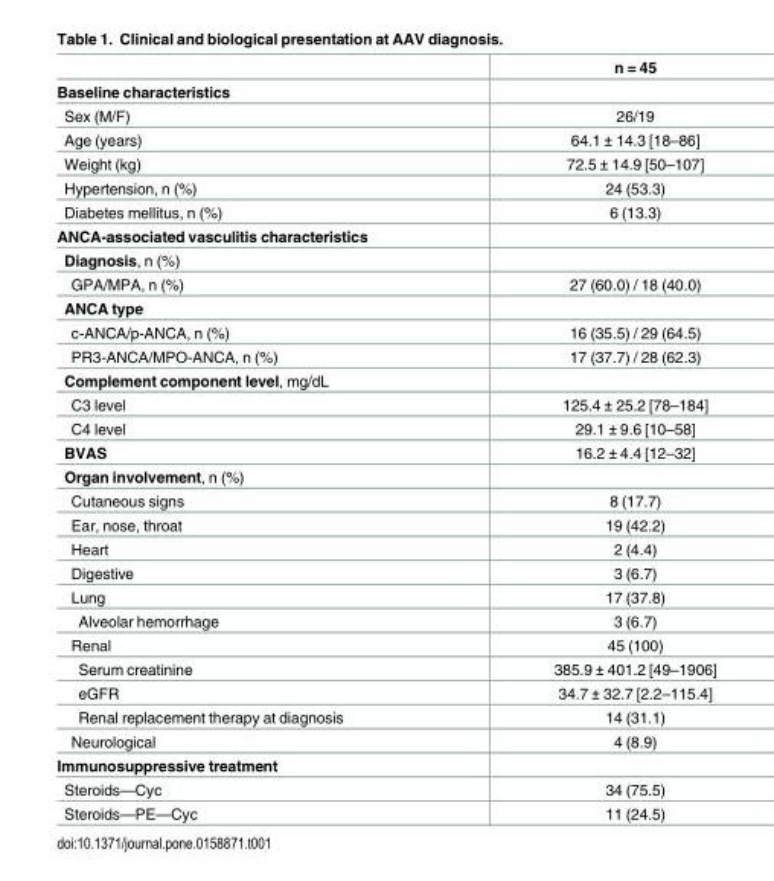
<table><thead><tr><td></td><td>n = 45</td></tr></thead><tbody><tr><td colspan="2">Baseline characteristics</td></tr><tr><td>Sex (M/F)</td><td>26/19</td></tr><tr><td>Age (years)</td><td>64.1 ± 14.3 [18–86]</td></tr><tr><td>Weight (kg)</td><td>72.5 ± 14.9 [50–107]</td></tr><tr><td>Hypertension, n (%)</td><td>24 (53.3)</td></tr><tr><td>Diabetes mellitus, n (%)</td><td>6 (13.3)</td></tr><tr><td colspan="2">ANCA-associated vasculitis characteristics</td></tr><tr><td colspan="2">Diagnosis, n (%)</td></tr><tr><td>GPA/MPA, n (%)</td><td>27 (60.0) / 18 (40.0)</td></tr><tr><td colspan="2">ANCA type</td></tr><tr><td>c-ANCA/p-ANCA, n (%)</td><td>16 (35.5) / 29 (64.5)</td></tr><tr><td>PR3-ANCA/MPO-ANCA, n (%)</td><td>17 (37.7) / 28 (62.3)</td></tr><tr><td colspan="2">Complement component level, mg/dL</td></tr><tr><td>C3 level</td><td>125.4 ± 25.2 [78–184]</td></tr><tr><td>C4 level</td><td>29.1 ± 9.6 [10–58]</td></tr><tr><td>BVAS</td><td>16.2 ± 4.4 [12–32]</td></tr><tr><td colspan="2">Organ involvement, n (%)</td></tr><tr><td>Cutaneous signs</td><td>8 (17.7)</td></tr><tr><td>Ear, nose, throat</td><td>19 (42.2)</td></tr><tr><td>Heart</td><td>2 (4.4)</td></tr><tr><td>Digestive</td><td>3 (6.7)</td></tr><tr><td>Lung</td><td>17 (37.8)</td></tr><tr><td>Alveolar hemorrhage</td><td>3 (6.7)</td></tr><tr><td>Renal</td><td>45 (100)</td></tr><tr><td>Serum creatinine</td><td>385.9 ± 401.2 [49–1906]</td></tr><tr><td>eGFR</td><td>34.7 ± 32.7 [2.2–115.4]</td></tr><tr><td>Renal replacement therapy at diagnosis</td><td>14 (31.1)</td></tr><tr><td>Neurological</td><td>4 (8.9)</td></tr><tr><td colspan="2">Immunosuppressive treatment</td></tr><tr><td>Steroids—Cyc</td><td>34 (75.5)</td></tr><tr><td>Steroids—PE—Cyc</td><td>11 (24.5)</td></tr></tbody></table>